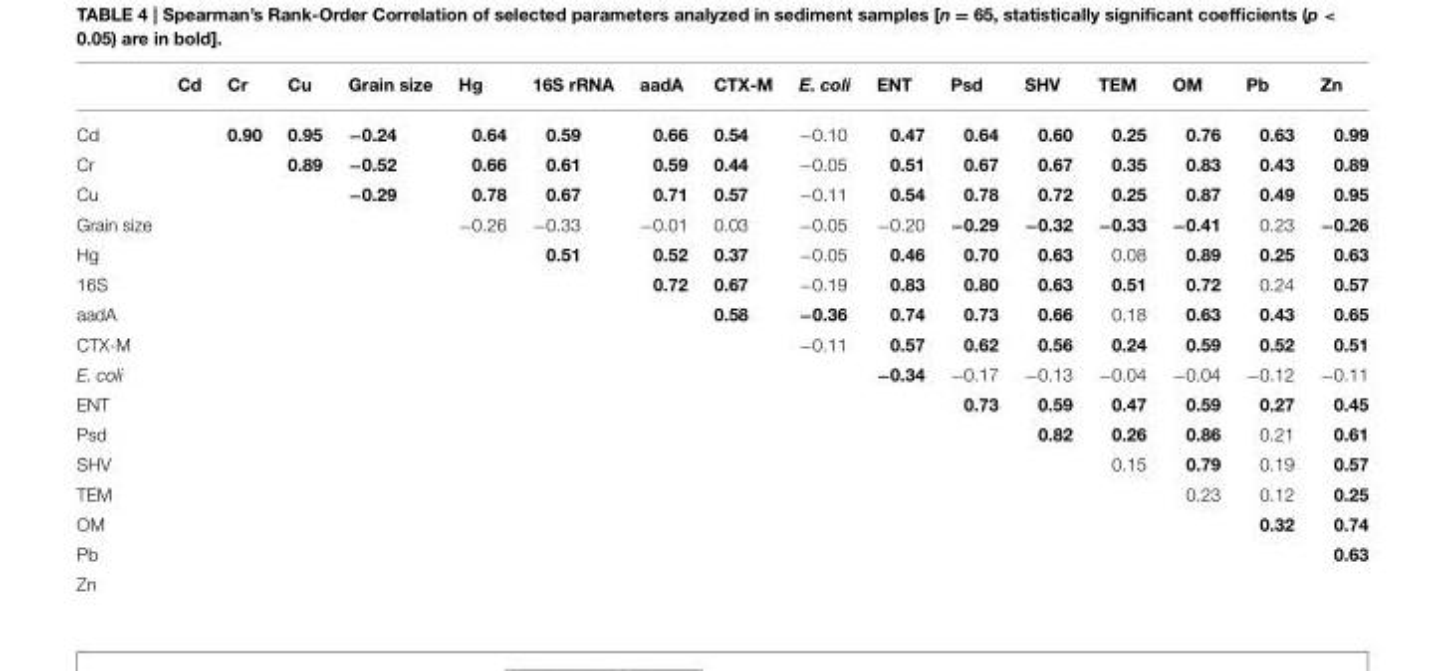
<table><thead><tr><td></td><td>Cd</td><td>Cr</td><td>Cu</td><td>Grain size</td><td>Hg</td><td>16S rRNA</td><td>aadA</td><td>CTX-M</td><td>E. coli</td><td>ENT</td><td>Psd</td><td>SHV</td><td>TEM</td><td>OM</td><td>Pb</td><td>Zn</td></tr></thead><tbody><tr><td>Cd</td><td></td><td>0.90</td><td>0.95</td><td>−0.24</td><td>0.64</td><td>0.59</td><td>0.66</td><td>0.54</td><td>−0.10</td><td>0.47</td><td>0.64</td><td>0.60</td><td>0.25</td><td>0.76</td><td>0.63</td><td>0.99</td></tr><tr><td>Cr</td><td></td><td></td><td>0.89</td><td>−0.52</td><td>0.66</td><td>0.61</td><td>0.59</td><td>0.44</td><td>−0.05</td><td>0.51</td><td>0.67</td><td>0.67</td><td>0.35</td><td>0.83</td><td>0.43</td><td>0.89</td></tr><tr><td>Cu</td><td></td><td></td><td></td><td>−0.29</td><td>0.78</td><td>0.67</td><td>0.71</td><td>0.57</td><td>−0.11</td><td>0.54</td><td>0.78</td><td>0.72</td><td>0.25</td><td>0.87</td><td>0.49</td><td>0.95</td></tr><tr><td>Grain size</td><td></td><td></td><td></td><td></td><td>−0.26</td><td>−0.33</td><td>−0.01</td><td>0.03</td><td>−0.05</td><td>−0.20</td><td>−0.29</td><td>−0.32</td><td>−0.33</td><td>−0.41</td><td>0.23</td><td>−0.26</td></tr><tr><td>Hg</td><td></td><td></td><td></td><td></td><td></td><td>0.51</td><td>0.52</td><td>0.37</td><td>−0.05</td><td>0.46</td><td>0.70</td><td>0.63</td><td>0.08</td><td>0.89</td><td>0.25</td><td>0.63</td></tr><tr><td>16S</td><td></td><td></td><td></td><td></td><td></td><td></td><td>0.72</td><td>0.67</td><td>−0.19</td><td>0.83</td><td>0.80</td><td>0.63</td><td>0.51</td><td>0.72</td><td>0.24</td><td>0.57</td></tr><tr><td>aadA</td><td></td><td></td><td></td><td></td><td></td><td></td><td></td><td>0.58</td><td>−0.36</td><td>0.74</td><td>0.73</td><td>0.66</td><td>0.18</td><td>0.63</td><td>0.43</td><td>0.65</td></tr><tr><td>CTX-M</td><td></td><td></td><td></td><td></td><td></td><td></td><td></td><td></td><td>−0.11</td><td>0.57</td><td>0.62</td><td>0.56</td><td>0.24</td><td>0.59</td><td>0.52</td><td>0.51</td></tr><tr><td>E. coli</td><td></td><td></td><td></td><td></td><td></td><td></td><td></td><td></td><td></td><td>−0.34</td><td>−0.17</td><td>−0.13</td><td>−0.04</td><td>−0.04</td><td>−0.12</td><td>−0.11</td></tr><tr><td>ENT</td><td></td><td></td><td></td><td></td><td></td><td></td><td></td><td></td><td></td><td></td><td>0.73</td><td>0.59</td><td>0.47</td><td>0.59</td><td>0.27</td><td>0.45</td></tr><tr><td>Psd</td><td></td><td></td><td></td><td></td><td></td><td></td><td></td><td></td><td></td><td></td><td></td><td>0.82</td><td>0.26</td><td>0.86</td><td>0.21</td><td>0.61</td></tr><tr><td>SHV</td><td></td><td></td><td></td><td></td><td></td><td></td><td></td><td></td><td></td><td></td><td></td><td></td><td>0.15</td><td>0.79</td><td>0.19</td><td>0.57</td></tr><tr><td>TEM</td><td></td><td></td><td></td><td></td><td></td><td></td><td></td><td></td><td></td><td></td><td></td><td></td><td></td><td>0.23</td><td>0.12</td><td>0.25</td></tr><tr><td>OM</td><td></td><td></td><td></td><td></td><td></td><td></td><td></td><td></td><td></td><td></td><td></td><td></td><td></td><td></td><td>0.32</td><td>0.74</td></tr><tr><td>Pb</td><td></td><td></td><td></td><td></td><td></td><td></td><td></td><td></td><td></td><td></td><td></td><td></td><td></td><td></td><td></td><td>0.63</td></tr><tr><td>Zn</td><td></td><td></td><td></td><td></td><td></td><td></td><td></td><td></td><td></td><td></td><td></td><td></td><td></td><td></td><td></td><td></td></tr></tbody></table>